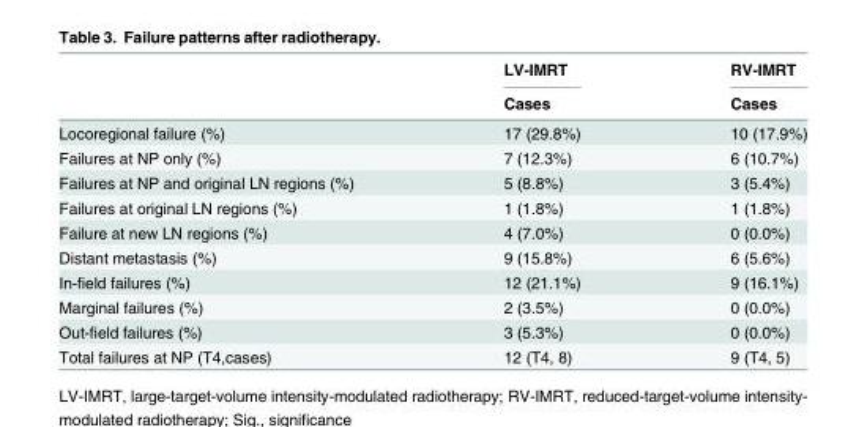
<table><thead><tr><td rowspan="2"></td><td rowspan="2">LV-IMRT Cases</td><td rowspan="2">RV-IMRT Cases</td></tr><tr></tr></thead><tbody><tr><td>Locoregional failure (%)</td><td>17 (29.8%)</td><td>10 (17.9%)</td></tr><tr><td>Failures at NP only (%)</td><td>7 (12.3%)</td><td>6 (10.7%)</td></tr><tr><td>Failures at NP and original LN regions (%)</td><td>5 (8.8%)</td><td>3 (5.4%)</td></tr><tr><td>Failures at original LN regions (%)</td><td>1 (1.8%)</td><td>1 (1.8%)</td></tr><tr><td>Failure at new LN regions (%)</td><td>4 (7.0%)</td><td>0 (0.0%)</td></tr><tr><td>Distant metastasis (%)</td><td>9 (15.8%)</td><td>6 (5.6%)</td></tr><tr><td>In-field failures (%)</td><td>12 (21.1%)</td><td>9 (16.1%)</td></tr><tr><td>Marginal failures (%)</td><td>2 (3.5%)</td><td>0 (0.0%)</td></tr><tr><td>Out-field failures (%)</td><td>3 (5.3%)</td><td>0 (0.0%)</td></tr><tr><td>Total failures at NP (T4,cases)</td><td>12 (T4, 8)</td><td>9 (T4, 5)</td></tr></tbody></table>